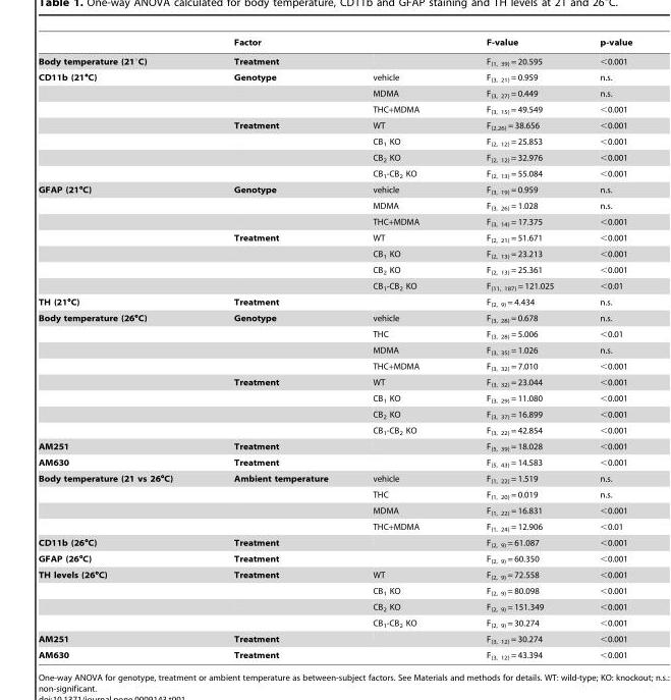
<table><thead><tr><td></td><td>Factor</td><td></td><td>F-value</td><td>p-value</td></tr></thead><tbody><tr><td>Body temperature (21°C)</td><td>Treatment</td><td></td><td>F<sub>(1, 39)</sub> = 20.595</td><td>&lt;0.001</td></tr><tr><td rowspan="7">CD11b (21°C)</td><td>Genotype</td><td>vehicle</td><td>F<sub>(3, 21)</sub> = 0.959</td><td>n.s.</td></tr><tr><td></td><td>MDMA</td><td>F<sub>(3, 27)</sub> = 0.449</td><td>n.s.</td></tr><tr><td></td><td>THC+MDMA</td><td>F<sub>(3, 15)</sub> = 49.549</td><td>&lt;0.001</td></tr><tr><td>Treatment</td><td>WT</td><td>F<sub>(2,26)</sub> = 38.656</td><td>&lt;0.001</td></tr><tr><td></td><td>CB<sub>1</sub> KO</td><td>F<sub>(2, 12)</sub> = 25.853</td><td>&lt;0.001</td></tr><tr><td></td><td>CB<sub>2</sub> KO</td><td>F<sub>(2, 12)</sub> = 32.976</td><td>&lt;0.001</td></tr><tr><td></td><td>CB<sub>1</sub>-CB<sub>2</sub> KO</td><td>F<sub>(2, 13)</sub> = 55.084</td><td>&lt;0.001</td></tr><tr><td rowspan="7">GFAP (21°C)</td><td>Genotype</td><td>vehicle</td><td>F<sub>(3, 19)</sub> = 0.959</td><td>n.s.</td></tr><tr><td></td><td>MDMA</td><td>F<sub>(3, 26)</sub> = 1.028</td><td>n.s.</td></tr><tr><td></td><td>THC+MDMA</td><td>F<sub>(3, 14)</sub> = 17.375</td><td>&lt;0.001</td></tr><tr><td>Treatment</td><td>WT</td><td>F<sub>(2, 21)</sub> = 51.671</td><td>&lt;0.001</td></tr><tr><td></td><td>CB<sub>1</sub> KO</td><td>F<sub>(2, 13)</sub> = 23.213</td><td>&lt;0.001</td></tr><tr><td></td><td>CB<sub>2</sub> KO</td><td>F<sub>(2, 13)</sub> = 25.361</td><td>&lt;0.001</td></tr><tr><td></td><td>CB<sub>1</sub>-CB<sub>2</sub> KO</td><td>F<sub>(11, 187)</sub> = 121.025</td><td>&lt;0.01</td></tr><tr><td>TH (21°C)</td><td>Treatment</td><td></td><td>F<sub>(2, 9)</sub> = 4.434</td><td>n.s.</td></tr><tr><td rowspan="8">Body temperature (26°C)</td><td>Genotype</td><td>vehicle</td><td>F<sub>(3, 28)</sub> = 0.678</td><td>n.s.</td></tr><tr><td></td><td>THC</td><td>F<sub>(3, 28)</sub> = 5.006</td><td>&lt;0.01</td></tr><tr><td></td><td>MDMA</td><td>F<sub>(3, 35)</sub> = 1.026</td><td>n.s.</td></tr><tr><td></td><td>THC+MDMA</td><td>F<sub>(3, 32)</sub> = 7.010</td><td>&lt;0.001</td></tr><tr><td>Treatment</td><td>WT</td><td>F<sub>(3, 32)</sub> = 23.044</td><td>&lt;0.001</td></tr><tr><td></td><td>CB<sub>1</sub> KO</td><td>F<sub>(3, 29)</sub> = 11.080</td><td>&lt;0.001</td></tr><tr><td></td><td>CB<sub>2</sub> KO</td><td>F<sub>(3, 37)</sub> = 16.899</td><td>&lt;0.001</td></tr><tr><td></td><td>CB<sub>1</sub>-CB<sub>2</sub> KO</td><td>F<sub>(3, 22)</sub> = 42.854</td><td>&lt;0.001</td></tr><tr><td>AM251</td><td>Treatment</td><td></td><td>F<sub>(5, 39)</sub> = 18.028</td><td>&lt;0.001</td></tr><tr><td>AM630</td><td>Treatment</td><td></td><td>F<sub>(5, 43)</sub> = 14.583</td><td>&lt;0.001</td></tr><tr><td rowspan="4">Body temperature (21 vs 26°C)</td><td>Ambient temperature</td><td>vehicle</td><td>F<sub>(1, 22)</sub> = 1.519</td><td>n.s.</td></tr><tr><td></td><td>THC</td><td>F<sub>(1, 20)</sub> = 0.019</td><td>n.s.</td></tr><tr><td></td><td>MDMA</td><td>F<sub>(1, 22)</sub> = 16.831</td><td>&lt;0.001</td></tr><tr><td></td><td>THC+MDMA</td><td>F<sub>(1, 24)</sub> = 12.906</td><td>&lt;0.01</td></tr><tr><td>CD11b (26°C)</td><td>Treatment</td><td></td><td>F<sub>(2, 9)</sub> = 61.087</td><td>&lt;0.001</td></tr><tr><td>GFAP (26°C)</td><td>Treatment</td><td></td><td>F<sub>(2, 9)</sub> = 60.350</td><td>&lt;0.001</td></tr><tr><td rowspan="4">TH levels (26°C)</td><td>Treatment</td><td>WT</td><td>F<sub>(2, 9)</sub> = 72.558</td><td>&lt;0.001</td></tr><tr><td></td><td>CB<sub>1</sub> KO</td><td>F<sub>(2, 9)</sub> = 80.098</td><td>&lt;0.001</td></tr><tr><td></td><td>CB<sub>2</sub> KO</td><td>F<sub>(2, 9)</sub> = 151.349</td><td>&lt;0.001</td></tr><tr><td></td><td>CB<sub>1</sub>-CB<sub>2</sub> KO</td><td>F<sub>(2, 9)</sub> = 30.274</td><td>&lt;0.001</td></tr><tr><td>AM251</td><td>Treatment</td><td></td><td>F<sub>(3, 12)</sub> = 30.274</td><td>&lt;0.001</td></tr><tr><td>AM630</td><td>Treatment</td><td></td><td>F<sub>(3, 12)</sub> = 43.394</td><td>&lt;0.001</td></tr></tbody></table>